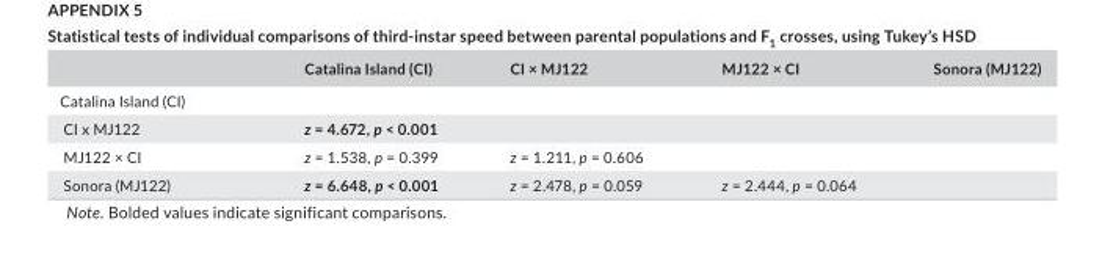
<table><thead><tr><td></td><td>Catalina Island (CI)</td><td>CI × MJ122</td><td>MJ122 × CI</td><td>Sonora (MJ122)</td></tr></thead><tbody><tr><td colspan="5">Catalina Island (CI)</td></tr><tr><td>CI x MJ122</td><td>z = 4.672, p &lt; 0.001</td><td></td><td></td><td></td></tr><tr><td>MJ122 × CI</td><td>z = 1.538, p = 0.399</td><td>z = 1.211, p = 0.606</td><td></td><td></td></tr><tr><td>Sonora (MJ122)</td><td>z = 6.648, p &lt; 0.001</td><td>z = 2.478, p = 0.059</td><td>z = 2.444, p = 0.064</td><td></td></tr></tbody></table>